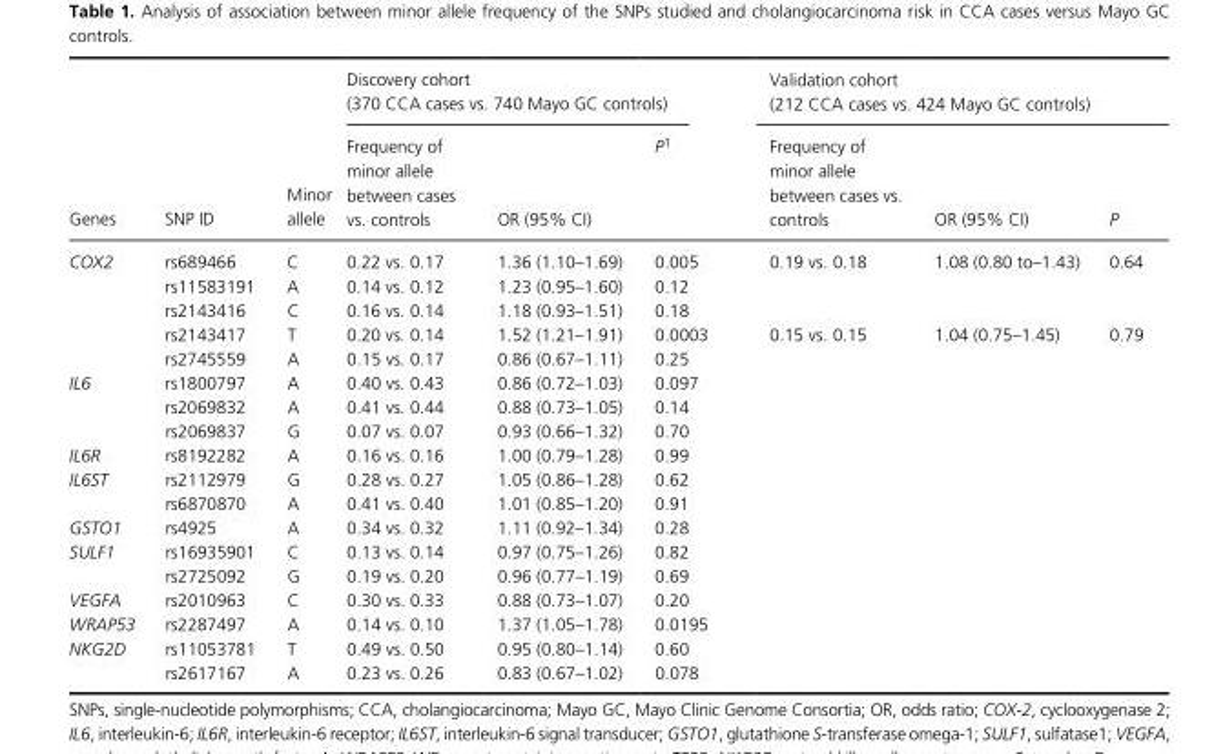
<table><thead><tr><td rowspan="2">Genes</td><td rowspan="2">SNP ID</td><td rowspan="2">Minor allele</td><td colspan="3">Discovery cohort (370 CCA cases vs. 740 Mayo GC controls)</td><td colspan="3">Validation cohort (212 CCA cases vs. 424 Mayo GC controls)</td></tr><tr><td>Frequency of minor allele between cases vs. controls</td><td>OR (95% CI)</td><td>P<sup>1</sup></td><td>Frequency of minor allele between cases vs. controls</td><td>OR (95% CI)</td><td>P</td></tr></thead><tbody><tr><td rowspan="5">COX2</td><td>rs689466</td><td>C</td><td>0.22 vs. 0.17</td><td>1.36 (1.10–1.69)</td><td>0.005</td><td>0.19 vs. 0.18</td><td>1.08 (0.80 to–1.43)</td><td>0.64</td></tr><tr><td>rs11583191</td><td>A</td><td>0.14 vs. 0.12</td><td>1.23 (0.95–1.60)</td><td>0.12</td><td></td><td></td><td></td></tr><tr><td>rs2143416</td><td>C</td><td>0.16 vs. 0.14</td><td>1.18 (0.93–1.51)</td><td>0.18</td><td></td><td></td><td></td></tr><tr><td>rs2143417</td><td>T</td><td>0.20 vs. 0.14</td><td>1.52 (1.21–1.91)</td><td>0.0003</td><td>0.15 vs. 0.15</td><td>1.04 (0.75–1.45)</td><td>0.79</td></tr><tr><td>rs2745559</td><td>A</td><td>0.15 vs. 0.17</td><td>0.86 (0.67–1.11)</td><td>0.25</td><td></td><td></td><td></td></tr><tr><td rowspan="3">IL6</td><td>rs1800797</td><td>A</td><td>0.40 vs. 0.43</td><td>0.86 (0.72–1.03)</td><td>0.097</td><td></td><td></td><td></td></tr><tr><td>rs2069832</td><td>A</td><td>0.41 vs. 0.44</td><td>0.88 (0.73–1.05)</td><td>0.14</td><td></td><td></td><td></td></tr><tr><td>rs2069837</td><td>G</td><td>0.07 vs. 0.07</td><td>0.93 (0.66–1.32)</td><td>0.70</td><td></td><td></td><td></td></tr><tr><td>IL6R</td><td>rs8192282</td><td>A</td><td>0.16 vs. 0.16</td><td>1.00 (0.79–1.28)</td><td>0.99</td><td></td><td></td><td></td></tr><tr><td rowspan="2">IL6ST</td><td>rs2112979</td><td>G</td><td>0.28 vs. 0.27</td><td>1.05 (0.86–1.28)</td><td>0.62</td><td></td><td></td><td></td></tr><tr><td>rs6870870</td><td>A</td><td>0.41 vs. 0.40</td><td>1.01 (0.85–1.20)</td><td>0.91</td><td></td><td></td><td></td></tr><tr><td>GSTO1</td><td>rs4925</td><td>A</td><td>0.34 vs. 0.32</td><td>1.11 (0.92–1.34)</td><td>0.28</td><td></td><td></td><td></td></tr><tr><td rowspan="2">SULF1</td><td>rs16935901</td><td>C</td><td>0.13 vs. 0.14</td><td>0.97 (0.75–1.26)</td><td>0.82</td><td></td><td></td><td></td></tr><tr><td>rs2725092</td><td>G</td><td>0.19 vs. 0.20</td><td>0.96 (0.77–1.19)</td><td>0.69</td><td></td><td></td><td></td></tr><tr><td>VEGFA</td><td>rs2010963</td><td>C</td><td>0.30 vs. 0.33</td><td>0.88 (0.73–1.07)</td><td>0.20</td><td></td><td></td><td></td></tr><tr><td>WRAP53</td><td>rs2287497</td><td>A</td><td>0.14 vs. 0.10</td><td>1.37 (1.05–1.78)</td><td>0.0195</td><td></td><td></td><td></td></tr><tr><td rowspan="2">NKG2D</td><td>rs11053781</td><td>T</td><td>0.49 vs. 0.50</td><td>0.95 (0.80–1.14)</td><td>0.60</td><td></td><td></td><td></td></tr><tr><td>rs2617167</td><td>A</td><td>0.23 vs. 0.26</td><td>0.83 (0.67–1.02)</td><td>0.078</td><td></td><td></td><td></td></tr></tbody></table>